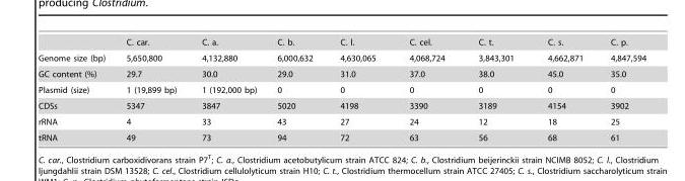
<table><thead><tr><td></td><td>C. car.</td><td>C. a.</td><td>C. b.</td><td>C. l.</td><td>C. cel.</td><td>C. t.</td><td>C. s.</td><td>C. p.</td></tr></thead><tbody><tr><td>Genome size (bp)</td><td>5,650,800</td><td>4,132,880</td><td>6,000,632</td><td>4,630,065</td><td>4,068,724</td><td>3,843,301</td><td>4,662,871</td><td>4,847,594</td></tr><tr><td>GC content (%)</td><td>29.7</td><td>30.0</td><td>29.0</td><td>31.0</td><td>37.0</td><td>38.0</td><td>45.0</td><td>35.0</td></tr><tr><td>Plasmid (size)</td><td>1 (19,899 bp)</td><td>1 (192,000 bp)</td><td>0</td><td>0</td><td>0</td><td>0</td><td>0</td><td>0</td></tr><tr><td>CDSs</td><td>5347</td><td>3847</td><td>5020</td><td>4198</td><td>3390</td><td>3189</td><td>4154</td><td>3902</td></tr><tr><td>rRNA</td><td>4</td><td>33</td><td>43</td><td>27</td><td>24</td><td>12</td><td>18</td><td>25</td></tr><tr><td>tRNA</td><td>49</td><td>73</td><td>94</td><td>72</td><td>63</td><td>56</td><td>68</td><td>61</td></tr></tbody></table>